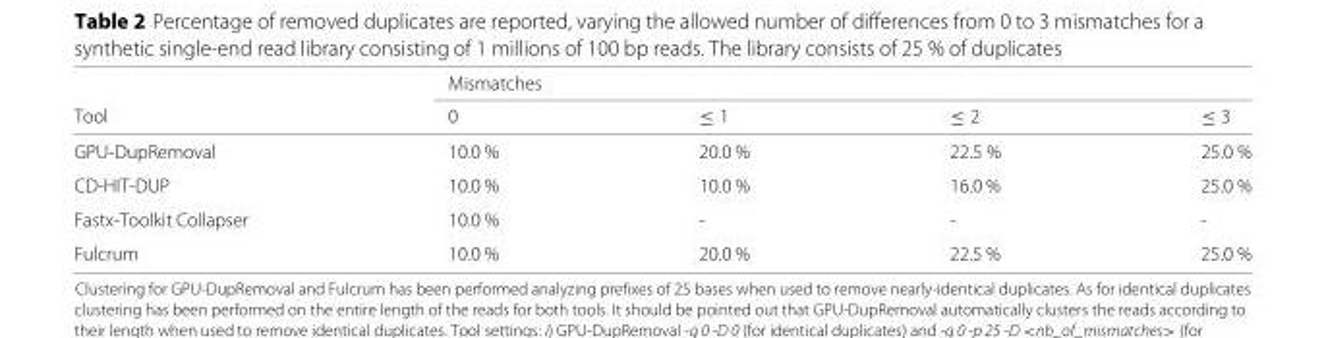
<table><thead><tr><td rowspan="2">Tool</td><td colspan="4">Mismatches</td></tr><tr><td>0</td><td>≤ 1</td><td>≤ 2</td><td>≤ 3</td></tr></thead><tbody><tr><td>GPU-DupRemoval</td><td>10.0 %</td><td>20.0 %</td><td>22.5 %</td><td>25.0 %</td></tr><tr><td>CD-HIT-DUP</td><td>10.0 %</td><td>10.0 %</td><td>16.0 %</td><td>25.0 %</td></tr><tr><td>Fastx-Toolkit Collapser</td><td>10.0 %</td><td>-</td><td>-</td><td>-</td></tr><tr><td>Fulcrum</td><td>10.0 %</td><td>20.0 %</td><td>22.5 %</td><td>25.0 %</td></tr></tbody></table>